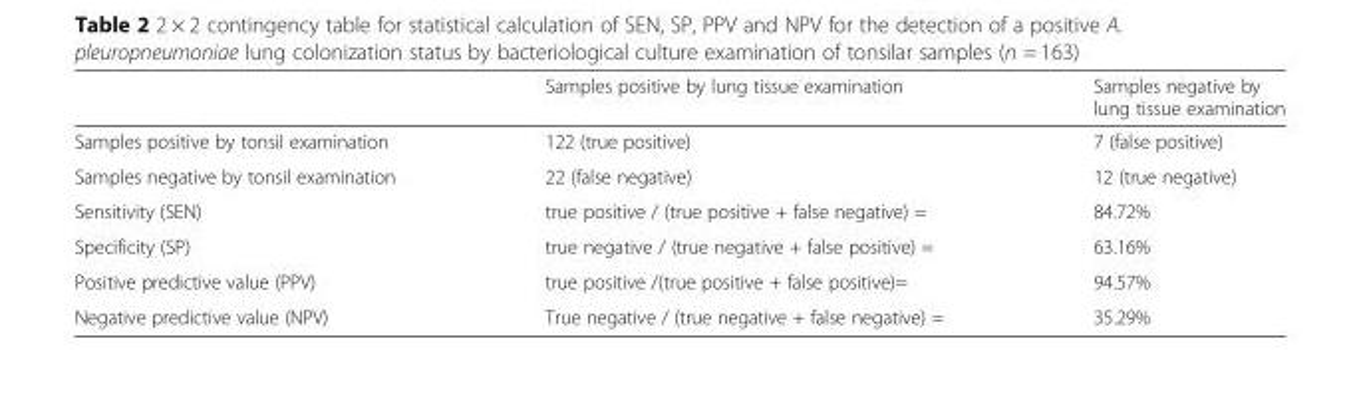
<table><thead><tr><td></td><td>Samples positive by lung tissue examination</td><td>Samples negative by lung tissue examination</td></tr></thead><tbody><tr><td>Samples positive by tonsil examination</td><td>122 (true positive)</td><td>7 (false positive)</td></tr><tr><td>Samples negative by tonsil examination</td><td>22 (false negative)</td><td>12 (true negative)</td></tr><tr><td>Sensitivity (SEN)</td><td>true positive / (true positive + false negative) =</td><td>84.72%</td></tr><tr><td>Specificity (SP)</td><td>true negative / (true negative + false positive) =</td><td>63.16%</td></tr><tr><td>Positive predictive value (PPV)</td><td>true positive /(true positive + false positive)=</td><td>94.57%</td></tr><tr><td>Negative predictive value (NPV)</td><td>True negative / (true negative + false negative) =</td><td>35.29%</td></tr></tbody></table>